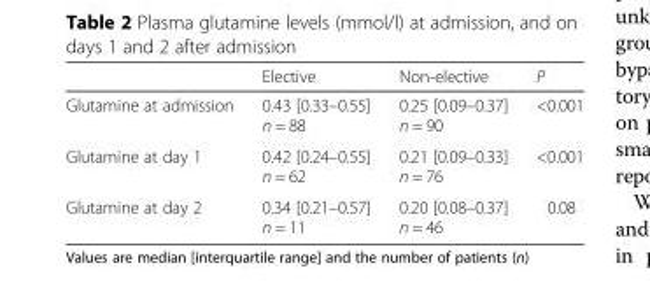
<table><thead><tr><td></td><td>Elective</td><td>Non-elective</td><td>P</td></tr></thead><tbody><tr><td>Glutamine at admission</td><td>0.43 [0.33–0.55] n = 88</td><td>0.25 [0.09–0.37] n = 90</td><td>&lt;0.001</td></tr><tr><td>Glutamine at day 1</td><td>0.42 [0.24–0.55] n = 62</td><td>0.21 [0.09–0.33] n = 76</td><td>&lt;0.001</td></tr><tr><td>Glutamine at day 2</td><td>0.34 [0.21–0.57] n = 11</td><td>0.20 [0.08–0.37] n = 46</td><td>0.08</td></tr></tbody></table>